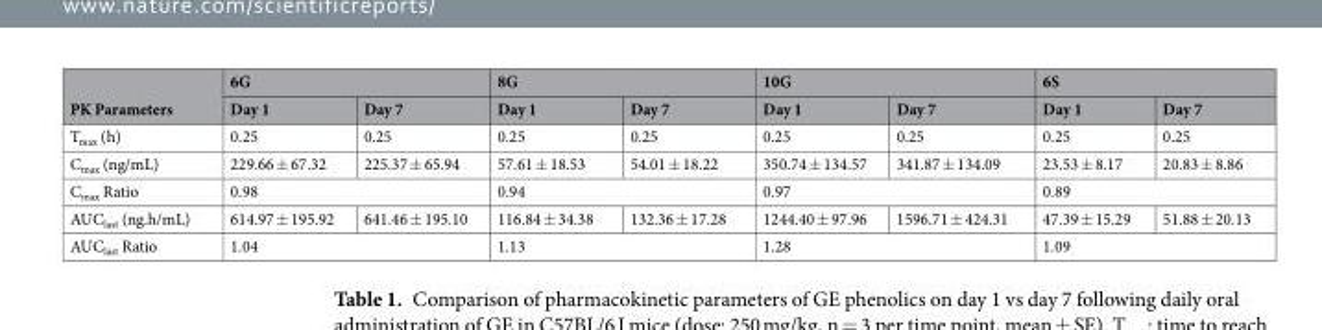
<table><thead><tr><td rowspan="2">PK Parameters</td><td colspan="2">6G</td><td colspan="2">8G</td><td colspan="2">10G</td><td colspan="2">6S</td></tr><tr><td>Day 1</td><td>Day 7</td><td>Day 1</td><td>Day 7</td><td>Day 1</td><td>Day 7</td><td>Day 1</td><td>Day 7</td></tr></thead><tbody><tr><td>T<sub>max</sub> (h)</td><td>0.25</td><td>0.25</td><td>0.25</td><td>0.25</td><td>0.25</td><td>0.25</td><td>0.25</td><td>0.25</td></tr><tr><td>C<sub>max</sub> (ng/mL)</td><td>229.66 ± 67.32</td><td>225.37 ± 65.94</td><td>57.61 ± 18.53</td><td>54.01 ± 18.22</td><td>350.74 ± 134.57</td><td>341.87 ± 134.09</td><td>23.53 ± 8.17</td><td>20.83 ± 8.86</td></tr><tr><td>C<sub>max</sub> Ratio</td><td colspan="2">0.98</td><td colspan="2">0.94</td><td colspan="2">0.97</td><td colspan="2">0.89</td></tr><tr><td>AUC<sub>last</sub> (ng.h/mL)</td><td>614.97 ± 195.92</td><td>641.46 ± 195.10</td><td>116.84 ± 34.38</td><td>132.36 ± 17.28</td><td>1244.40 ± 97.96</td><td>1596.71 ± 424.31</td><td>47.39 ± 15.29</td><td>51.88 ± 20.13</td></tr><tr><td>AUC<sub>last</sub> Ratio</td><td colspan="2">1.04</td><td colspan="2">1.13</td><td colspan="2">1.28</td><td colspan="2">1.09</td></tr></tbody></table>